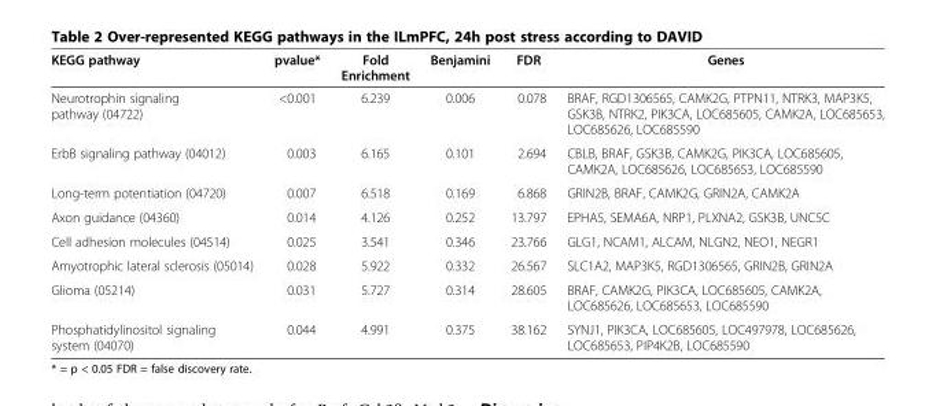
<table><thead><tr><td>KEGG pathway</td><td>pvalue*</td><td>Fold Enrichment</td><td>Benjamini</td><td>FDR</td><td>Genes</td></tr></thead><tbody><tr><td>Neurotrophin signaling pathway (04722)</td><td>&lt;0.001</td><td>6.239</td><td>0.006</td><td>0.078</td><td>BRAF, RGD1306565, CAMK2G, PTPN11, NTRK3, MAP3K5, GSK3B, NTRK2, PIK3CA, LOC685605, CAMK2A, LOC685653, LOC685626, LOC685590</td></tr><tr><td>ErbB signaling pathway (04012)</td><td>0.003</td><td>6.165</td><td>0.101</td><td>2.694</td><td>CBLB, BRAF, GSK3B, CAMK2G, PIK3CA, LOC685605, CAMK2A, LOC685626, LOC685653, LOC685590</td></tr><tr><td>Long-term potentiation (04720)</td><td>0.007</td><td>6.518</td><td>0.169</td><td>6.868</td><td>GRIN2B, BRAF, CAMK2G, GRIN2A, CAMK2A</td></tr><tr><td>Axon guidance (04360)</td><td>0.014</td><td>4.126</td><td>0.252</td><td>13.797</td><td>EPHA5, SEMA6A, NRP1, PLXNA2, GSK3B, UNC5C</td></tr><tr><td>Cell adhesion molecules (04514)</td><td>0.025</td><td>3.541</td><td>0.346</td><td>23.766</td><td>GLG1, NCAM1, ALCAM, NLGN2, NEO1, NEGR1</td></tr><tr><td>Amyotrophic lateral sclerosis (05014)</td><td>0.028</td><td>5.922</td><td>0.332</td><td>26.567</td><td>SLC1A2, MAP3K5, RGD1306565, GRIN2B, GRIN2A</td></tr><tr><td>Glioma (05214)</td><td>0.031</td><td>5.727</td><td>0.314</td><td>28.605</td><td>BRAF, CAMK2G, PIK3CA, LOC685605, CAMK2A, LOC685626, LOC685653, LOC685590</td></tr><tr><td>Phosphatidylinositol signaling system (04070)</td><td>0.044</td><td>4.991</td><td>0.375</td><td>38.162</td><td>SYNJ1, PIK3CA, LOC685605, LOC497978, LOC685626, LOC685653, PIP4K2B, LOC685590</td></tr></tbody></table>